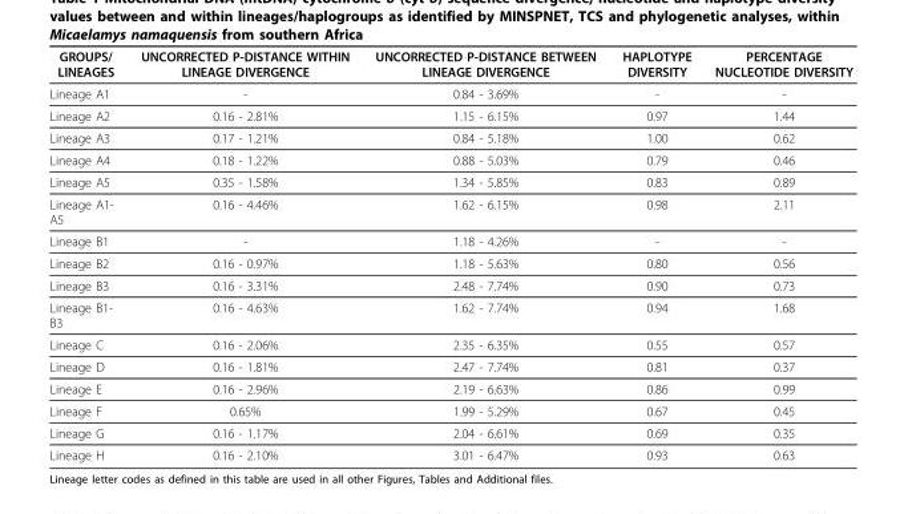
<table><thead><tr><td>GROUPS/ LINEAGES</td><td>UNCORRECTED P-DISTANCE WITHIN LINEAGE DIVERGENCE</td><td>UNCORRECTED P-DISTANCE BETWEEN LINEAGE DIVERGENCE</td><td>HAPLOTYPE DIVERSITY</td><td>PERCENTAGE NUCLEOTIDE DIVERSITY</td></tr></thead><tbody><tr><td>Lineage A1</td><td>-</td><td>0.84 - 3.69%</td><td>-</td><td>-</td></tr><tr><td>Lineage A2</td><td>0.16 - 2.81%</td><td>1.15 - 6.15%</td><td>0.97</td><td>1.44</td></tr><tr><td>Lineage A3</td><td>0.17 - 1.21%</td><td>0.84 - 5.18%</td><td>1.00</td><td>0.62</td></tr><tr><td>Lineage A4</td><td>0.18 - 1.22%</td><td>0.88 - 5.03%</td><td>0.79</td><td>0.46</td></tr><tr><td>Lineage A5</td><td>0.35 - 1.58%</td><td>1.34 - 5.85%</td><td>0.83</td><td>0.89</td></tr><tr><td>Lineage A1- A5</td><td>0.16 - 4.46%</td><td>1.62 - 6.15%</td><td>0.98</td><td>2.11</td></tr><tr><td>Lineage B1</td><td>-</td><td>1.18 - 4.26%</td><td>-</td><td>-</td></tr><tr><td>Lineage B2</td><td>0.16 - 0.97%</td><td>1.18 - 5.63%</td><td>0.80</td><td>0.56</td></tr><tr><td>Lineage B3</td><td>0.16 - 3.31%</td><td>2.48 - 7.74%</td><td>0.90</td><td>0.73</td></tr><tr><td>Lineage B1- B3</td><td>0.16 - 4.63%</td><td>1.62 - 7.74%</td><td>0.94</td><td>1.68</td></tr><tr><td>Lineage C</td><td>0.16 - 2.06%</td><td>2.35 - 6.35%</td><td>0.55</td><td>0.57</td></tr><tr><td>Lineage D</td><td>0.16 - 1.81%</td><td>2.47 - 7.74%</td><td>0.81</td><td>0.37</td></tr><tr><td>Lineage E</td><td>0.16 - 2.96%</td><td>2.19 - 6.63%</td><td>0.86</td><td>0.99</td></tr><tr><td>Lineage F</td><td>0.65%</td><td>1.99 - 5.29%</td><td>0.67</td><td>0.45</td></tr><tr><td>Lineage G</td><td>0.16 - 1.17%</td><td>2.04 - 6.61%</td><td>0.69</td><td>0.35</td></tr><tr><td>Lineage H</td><td>0.16 - 2.10%</td><td>3.01 - 6.47%</td><td>0.93</td><td>0.63</td></tr></tbody></table>